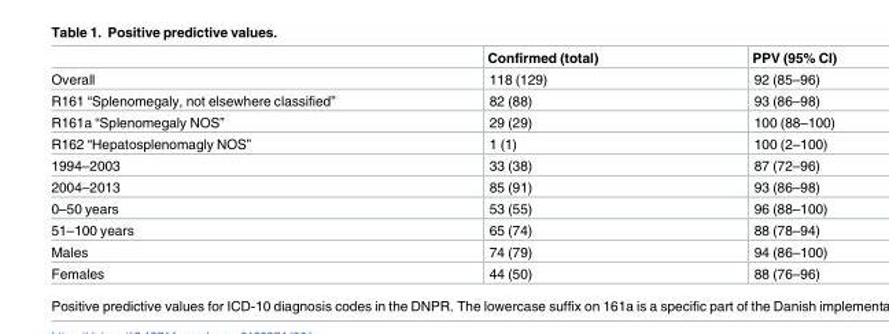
<table><thead><tr><td></td><td>Confirmed (total)</td><td>PPV (95% CI)</td></tr></thead><tbody><tr><td>Overall</td><td>118 (129)</td><td>92 (85–96)</td></tr><tr><td>R161 “Splenomegaly, not elsewhere classified”</td><td>82 (88)</td><td>93 (86–98)</td></tr><tr><td>R161a “Splenomegaly NOS”</td><td>29 (29)</td><td>100 (88–100)</td></tr><tr><td>R162 “Hepatosplenomagly NOS”</td><td>1 (1)</td><td>100 (2–100)</td></tr><tr><td>1994–2003</td><td>33 (38)</td><td>87 (72–96)</td></tr><tr><td>2004–2013</td><td>85 (91)</td><td>93 (86–98)</td></tr><tr><td>0–50 years</td><td>53 (55)</td><td>96 (88–100)</td></tr><tr><td>51–100 years</td><td>65 (74)</td><td>88 (78–94)</td></tr><tr><td>Males</td><td>74 (79)</td><td>94 (86–100)</td></tr><tr><td>Females</td><td>44 (50)</td><td>88 (76–96)</td></tr></tbody></table>